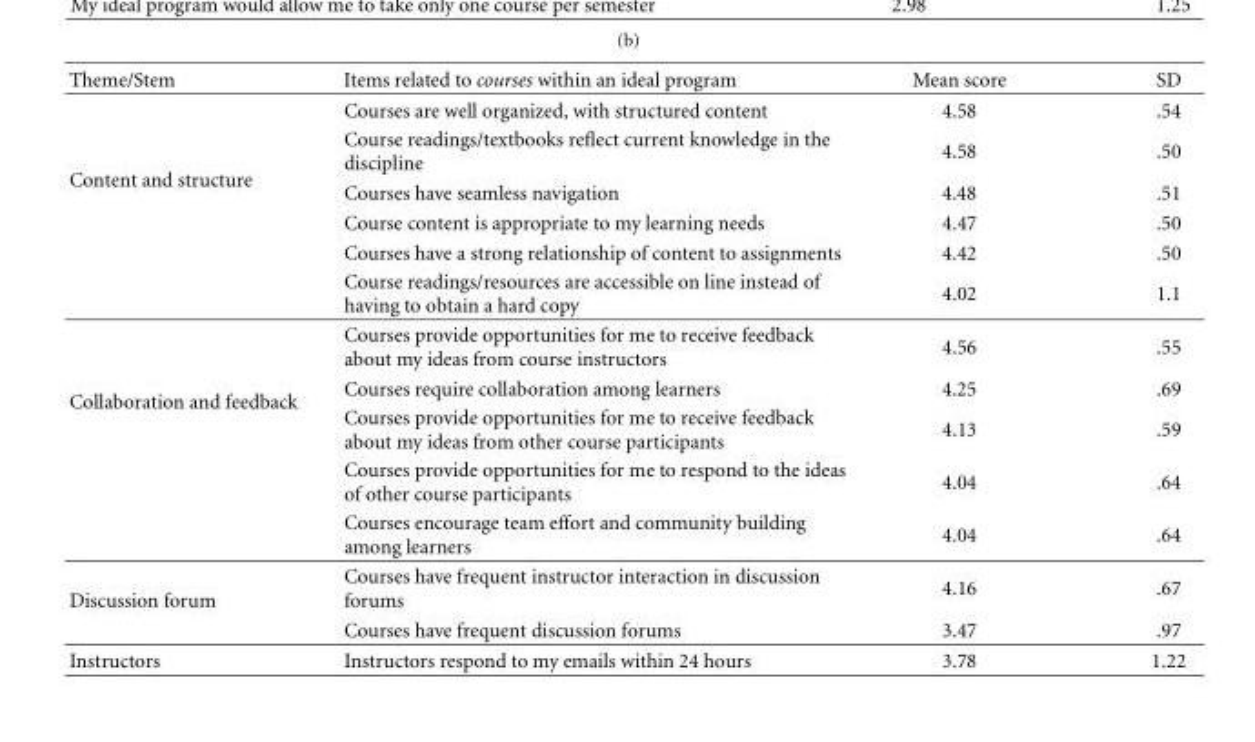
<table><thead><tr><td>Theme/Stem</td><td>Items related to courses within an ideal program</td><td>Mean score</td><td>SD</td></tr></thead><tbody><tr><td rowspan="6">Content and structure</td><td>Courses are well organized, with structured content</td><td>4.58</td><td>.54</td></tr><tr><td>Course readings/textbooks reflect current knowledge in the discipline</td><td>4.58</td><td>.50</td></tr><tr><td>Courses have seamless navigation</td><td>4.48</td><td>.51</td></tr><tr><td>Course content is appropriate to my learning needs</td><td>4.47</td><td>.50</td></tr><tr><td>Courses have a strong relationship of content to assignments</td><td>4.42</td><td>.50</td></tr><tr><td>Course readings/resources are accessible on line instead of having to obtain a hard copy</td><td>4.02</td><td>1.1</td></tr><tr><td rowspan="5">Collaboration and feedback</td><td>Courses provide opportunities for me to receive feedback about my ideas from course instructors</td><td>4.56</td><td>.55</td></tr><tr><td>Courses require collaboration among learners</td><td>4.25</td><td>.69</td></tr><tr><td>Courses provide opportunities for me to receive feedback about my ideas from other course participants</td><td>4.13</td><td>.59</td></tr><tr><td>Courses provide opportunities for me to respond to the ideas of other course participants</td><td>4.04</td><td>.64</td></tr><tr><td>Courses encourage team effort and community building among learners</td><td>4.04</td><td>.64</td></tr><tr><td rowspan="2">Discussion forum</td><td>Courses have frequent instructor interaction in discussion forums</td><td>4.16</td><td>.67</td></tr><tr><td>Courses have frequent discussion forums</td><td>3.47</td><td>.97</td></tr><tr><td>Instructors</td><td>Instructors respond to my emails within 24 hours</td><td>3.78</td><td>1.22</td></tr></tbody></table>